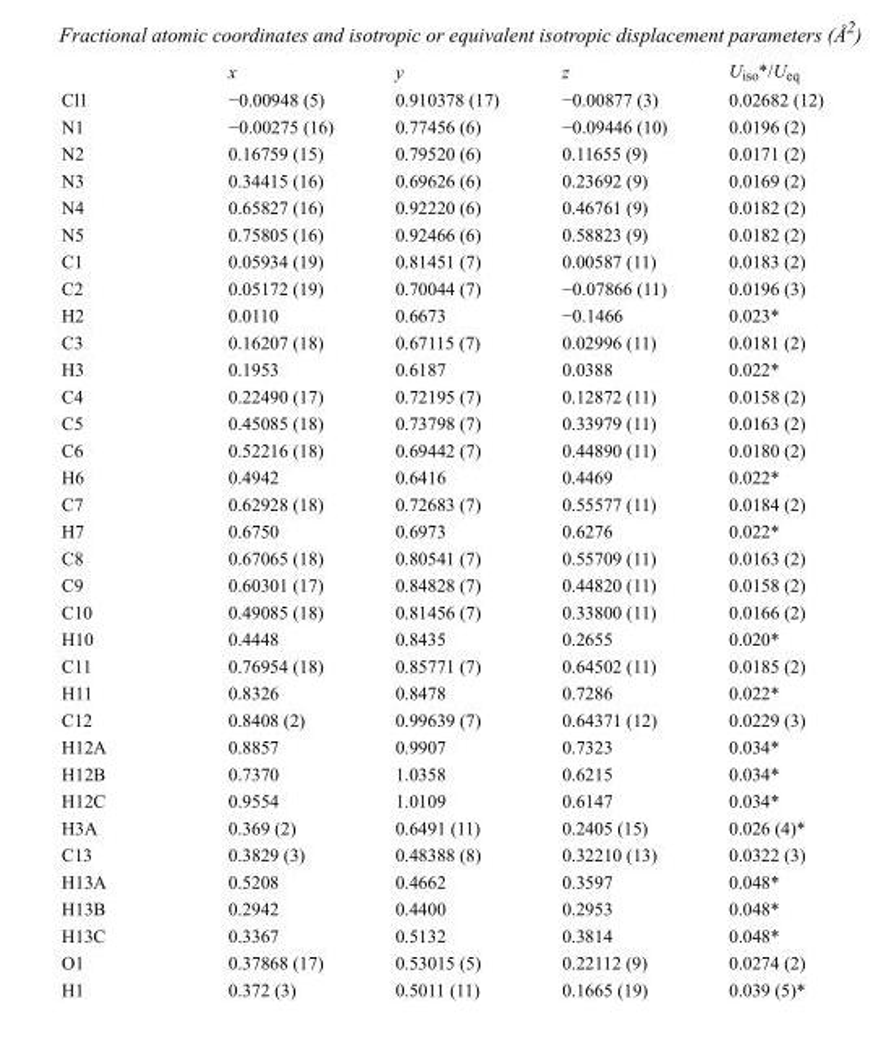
<table><thead><tr><td></td><td>x</td><td>y</td><td>z</td><td>U<sub>iso</sub>*/U<sub>eq</sub></td></tr></thead><tbody><tr><td>Cl1</td><td>−0.00948 (5)</td><td>0.910378 (17)</td><td>−0.00877 (3)</td><td>0.02682 (12)</td></tr><tr><td>N1</td><td>−0.00275 (16)</td><td>0.77456 (6)</td><td>−0.09446 (10)</td><td>0.0196 (2)</td></tr><tr><td>N2</td><td>0.16759 (15)</td><td>0.79520 (6)</td><td>0.11655 (9)</td><td>0.0171 (2)</td></tr><tr><td>N3</td><td>0.34415 (16)</td><td>0.69626 (6)</td><td>0.23692 (9)</td><td>0.0169 (2)</td></tr><tr><td>N4</td><td>0.65827 (16)</td><td>0.92220 (6)</td><td>0.46761 (9)</td><td>0.0182 (2)</td></tr><tr><td>N5</td><td>0.75805 (16)</td><td>0.92466 (6)</td><td>0.58823 (9)</td><td>0.0182 (2)</td></tr><tr><td>C1</td><td>0.05934 (19)</td><td>0.81451 (7)</td><td>0.00587 (11)</td><td>0.0183 (2)</td></tr><tr><td>C2</td><td>0.05172 (19)</td><td>0.70044 (7)</td><td>−0.07866 (11)</td><td>0.0196 (3)</td></tr><tr><td>H2</td><td>0.0110</td><td>0.6673</td><td>−0.1466</td><td>0.023*</td></tr><tr><td>C3</td><td>0.16207 (18)</td><td>0.67115 (7)</td><td>0.02996 (11)</td><td>0.0181 (2)</td></tr><tr><td>H3</td><td>0.1953</td><td>0.6187</td><td>0.0388</td><td>0.022*</td></tr><tr><td>C4</td><td>0.22490 (17)</td><td>0.72195 (7)</td><td>0.12872 (11)</td><td>0.0158 (2)</td></tr><tr><td>C5</td><td>0.45085 (18)</td><td>0.73798 (7)</td><td>0.33979 (11)</td><td>0.0163 (2)</td></tr><tr><td>C6</td><td>0.52216 (18)</td><td>0.69442 (7)</td><td>0.44890 (11)</td><td>0.0180 (2)</td></tr><tr><td>H6</td><td>0.4942</td><td>0.6416</td><td>0.4469</td><td>0.022*</td></tr><tr><td>C7</td><td>0.62928 (18)</td><td>0.72683 (7)</td><td>0.55577 (11)</td><td>0.0184 (2)</td></tr><tr><td>H7</td><td>0.6750</td><td>0.6973</td><td>0.6276</td><td>0.022*</td></tr><tr><td>C8</td><td>0.67065 (18)</td><td>0.80541 (7)</td><td>0.55709 (11)</td><td>0.0163 (2)</td></tr><tr><td>C9</td><td>0.60301 (17)</td><td>0.84828 (7)</td><td>0.44820 (11)</td><td>0.0158 (2)</td></tr><tr><td>C10</td><td>0.49085 (18)</td><td>0.81456 (7)</td><td>0.33800 (11)</td><td>0.0166 (2)</td></tr><tr><td>H10</td><td>0.4448</td><td>0.8435</td><td>0.2655</td><td>0.020*</td></tr><tr><td>C11</td><td>0.76954 (18)</td><td>0.85771 (7)</td><td>0.64502 (11)</td><td>0.0185 (2)</td></tr><tr><td>H11</td><td>0.8326</td><td>0.8478</td><td>0.7286</td><td>0.022*</td></tr><tr><td>C12</td><td>0.8408 (2)</td><td>0.99639 (7)</td><td>0.64371 (12)</td><td>0.0229 (3)</td></tr><tr><td>H12A</td><td>0.8857</td><td>0.9907</td><td>0.7323</td><td>0.034*</td></tr><tr><td>H12B</td><td>0.7370</td><td>1.0358</td><td>0.6215</td><td>0.034*</td></tr><tr><td>H12C</td><td>0.9554</td><td>1.0109</td><td>0.6147</td><td>0.034*</td></tr><tr><td>H3A</td><td>0.369 (2)</td><td>0.6491 (11)</td><td>0.2405 (15)</td><td>0.026 (4)*</td></tr><tr><td>C13</td><td>0.3829 (3)</td><td>0.48388 (8)</td><td>0.32210 (13)</td><td>0.0322 (3)</td></tr><tr><td>H13A</td><td>0.5208</td><td>0.4662</td><td>0.3597</td><td>0.048*</td></tr><tr><td>H13B</td><td>0.2942</td><td>0.4400</td><td>0.2953</td><td>0.048*</td></tr><tr><td>H13C</td><td>0.3367</td><td>0.5132</td><td>0.3814</td><td>0.048*</td></tr><tr><td>O1</td><td>0.37868 (17)</td><td>0.53015 (5)</td><td>0.22112 (9)</td><td>0.0274 (2)</td></tr><tr><td>H1</td><td>0.372 (3)</td><td>0.5011 (11)</td><td>0.1665 (19)</td><td>0.039 (5)*</td></tr></tbody></table>